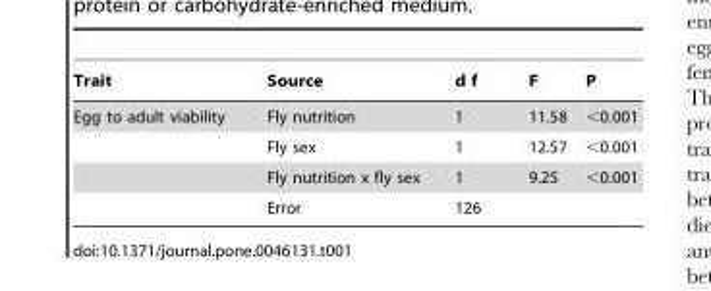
<table><thead><tr><td>Trait</td><td>Source</td><td>d f</td><td>F</td><td>P</td></tr></thead><tbody><tr><td rowspan="4">Egg to adult viability</td><td>Fly nutrition</td><td>1</td><td>11.58</td><td>&lt;0.001</td></tr><tr><td>Fly sex</td><td>1</td><td>12.57</td><td>&lt;0.001</td></tr><tr><td>Fly nutrition x fly sex</td><td>1</td><td>9.25</td><td>&lt;0.001</td></tr><tr><td>Error</td><td>126</td><td></td><td></td></tr></tbody></table>